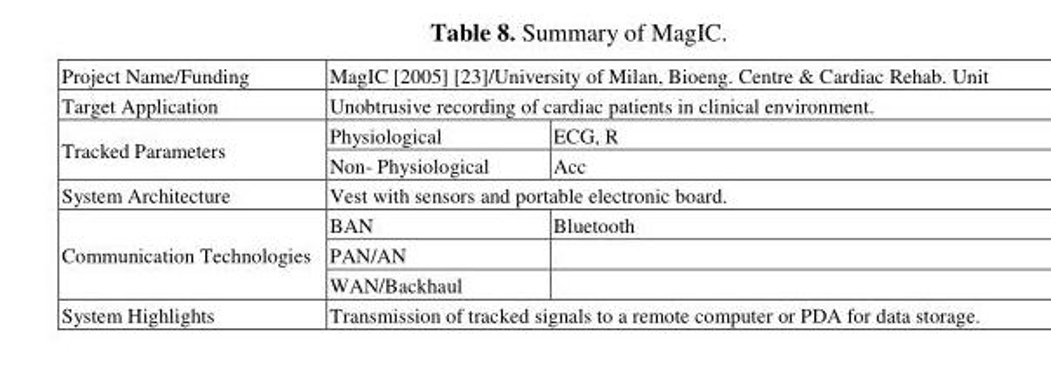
<table><tbody><tr><td>Project Name/Funding</td><td colspan="2">MagIC [2005] [23]/University of Milan, Bioeng. Centre &amp; Cardiac Rehab. Unit</td></tr><tr><td>Target Application</td><td colspan="2">Unobtrusive recording of cardiac patients in clinical environment.</td></tr><tr><td rowspan="2">Tracked Parameters</td><td>Physiological</td><td>ECG, R</td></tr><tr><td>Non- Physiological</td><td>Acc</td></tr><tr><td>System Architecture</td><td colspan="2">Vest with sensors and portable electronic board.</td></tr><tr><td rowspan="3">Communication Technologies</td><td>BAN</td><td>Bluetooth</td></tr><tr><td>PAN/AN</td><td></td></tr><tr><td>WAN/Backhaul</td><td></td></tr><tr><td>System Highlights</td><td colspan="2">Transmission of tracked signals to a remote computer or PDA for data storage.</td></tr></tbody></table>